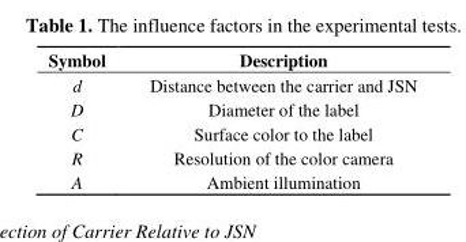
<table><thead><tr><td>Symbol</td><td>Description</td></tr></thead><tbody><tr><td>d</td><td>Distance between the carrier and JSN</td></tr><tr><td>D</td><td>Diameter of the label</td></tr><tr><td>C</td><td>Surface color to the label</td></tr><tr><td>R</td><td>Resolution of the color camera</td></tr><tr><td>A</td><td>Ambient illumination</td></tr></tbody></table>